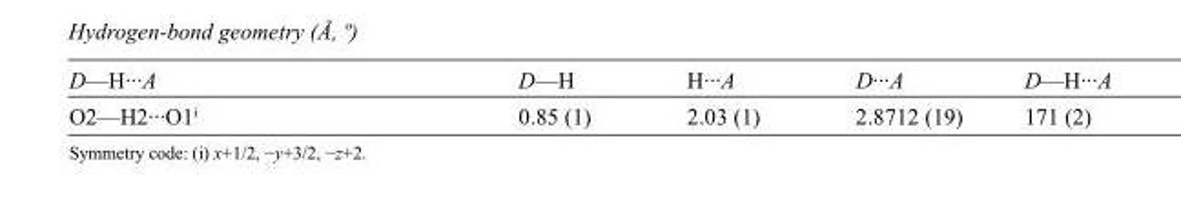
<table><tbody><tr><td>D—H···A</td><td>D—H</td><td>H···A</td><td>D···A</td><td>D—H···A</td></tr><tr><td>O2—H2···O1<sup>i</sup></td><td>0.85 (1)</td><td>2.03 (1)</td><td>2.8712 (19)</td><td>171 (2)</td></tr></tbody></table>